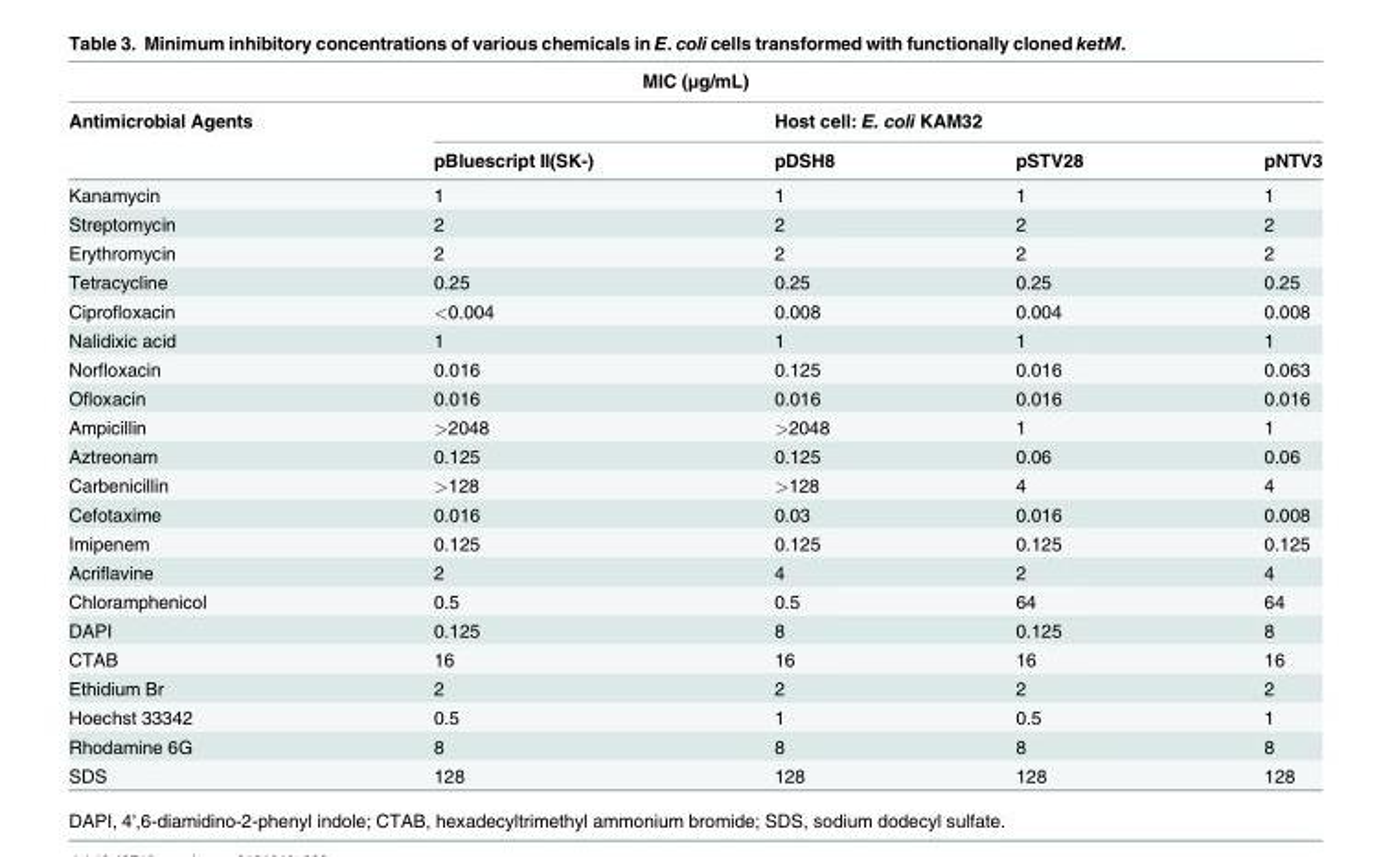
<table><thead><tr><td colspan="5">MIC (μg/mL)</td></tr><tr><td rowspan="2">Antimicrobial Agents</td><td colspan="4">Host cell: E. coli KAM32</td></tr><tr><td>pBluescript II(SK-)</td><td>pDSH8</td><td>pSTV28</td><td>pNTV3</td></tr></thead><tbody><tr><td>Kanamycin</td><td>1</td><td>1</td><td>1</td><td>1</td></tr><tr><td>Streptomycin</td><td>2</td><td>2</td><td>2</td><td>2</td></tr><tr><td>Erythromycin</td><td>2</td><td>2</td><td>2</td><td>2</td></tr><tr><td>Tetracycline</td><td>0.25</td><td>0.25</td><td>0.25</td><td>0.25</td></tr><tr><td>Ciprofloxacin</td><td>&lt;0.004</td><td>0.008</td><td>0.004</td><td>0.008</td></tr><tr><td>Nalidixic acid</td><td>1</td><td>1</td><td>1</td><td>1</td></tr><tr><td>Norfloxacin</td><td>0.016</td><td>0.125</td><td>0.016</td><td>0.063</td></tr><tr><td>Ofloxacin</td><td>0.016</td><td>0.016</td><td>0.016</td><td>0.016</td></tr><tr><td>Ampicillin</td><td>&gt;2048</td><td>&gt;2048</td><td>1</td><td>1</td></tr><tr><td>Aztreonam</td><td>0.125</td><td>0.125</td><td>0.06</td><td>0.06</td></tr><tr><td>Carbenicillin</td><td>&gt;128</td><td>&gt;128</td><td>4</td><td>4</td></tr><tr><td>Cefotaxime</td><td>0.016</td><td>0.03</td><td>0.016</td><td>0.008</td></tr><tr><td>Imipenem</td><td>0.125</td><td>0.125</td><td>0.125</td><td>0.125</td></tr><tr><td>Acriflavine</td><td>2</td><td>4</td><td>2</td><td>4</td></tr><tr><td>Chloramphenicol</td><td>0.5</td><td>0.5</td><td>64</td><td>64</td></tr><tr><td>DAPI</td><td>0.125</td><td>8</td><td>0.125</td><td>8</td></tr><tr><td>CTAB</td><td>16</td><td>16</td><td>16</td><td>16</td></tr><tr><td>Ethidium Br</td><td>2</td><td>2</td><td>2</td><td>2</td></tr><tr><td>Hoechst 33342</td><td>0.5</td><td>1</td><td>0.5</td><td>1</td></tr><tr><td>Rhodamine 6G</td><td>8</td><td>8</td><td>8</td><td>8</td></tr><tr><td>SDS</td><td>128</td><td>128</td><td>128</td><td>128</td></tr></tbody></table>